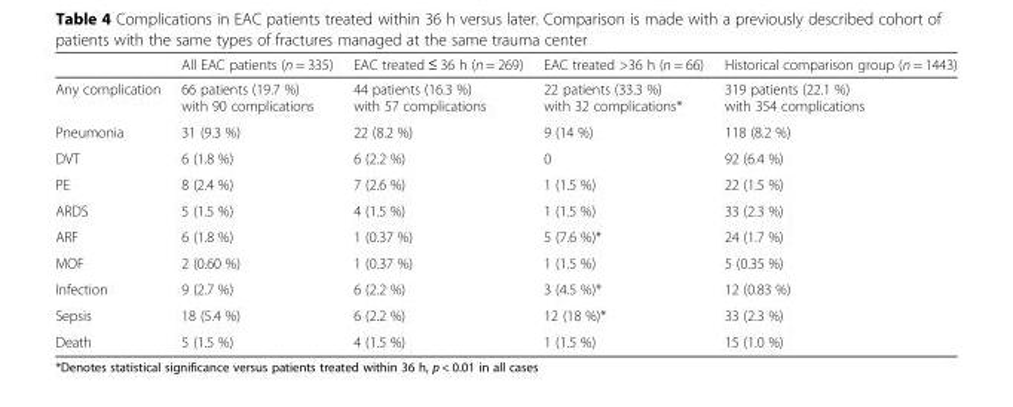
<table><thead><tr><td></td><td>All EAC patients (n = 335)</td><td>EAC treated ≤ 36 h (n = 269)</td><td>EAC treated &gt;36 h (n = 66)</td><td>Historical comparison group (n = 1443)</td></tr></thead><tbody><tr><td>Any complication</td><td>66 patients (19.7 %) with 90 complications</td><td>44 patients (16.3 %) with 57 complications</td><td>22 patients (33.3 %) with 32 complications*</td><td>319 patients (22.1 %) with 354 complications</td></tr><tr><td>Pneumonia</td><td>31 (9.3 %)</td><td>22 (8.2 %)</td><td>9 (14 %)</td><td>118 (8.2 %)</td></tr><tr><td>DVT</td><td>6 (1.8 %)</td><td>6 (2.2 %)</td><td>0</td><td>92 (6.4 %)</td></tr><tr><td>PE</td><td>8 (2.4 %)</td><td>7 (2.6 %)</td><td>1 (1.5 %)</td><td>22 (1.5 %)</td></tr><tr><td>ARDS</td><td>5 (1.5 %)</td><td>4 (1.5 %)</td><td>1 (1.5 %)</td><td>33 (2.3 %)</td></tr><tr><td>ARF</td><td>6 (1.8 %)</td><td>1 (0.37 %)</td><td>5 (7.6 %)*</td><td>24 (1.7 %)</td></tr><tr><td>MOF</td><td>2 (0.60 %)</td><td>1 (0.37 %)</td><td>1 (1.5 %)</td><td>5 (0.35 %)</td></tr><tr><td>Infection</td><td>9 (2.7 %)</td><td>6 (2.2 %)</td><td>3 (4.5 %)*</td><td>12 (0.83 %)</td></tr><tr><td>Sepsis</td><td>18 (5.4 %)</td><td>6 (2.2 %)</td><td>12 (18 %)*</td><td>33 (2.3 %)</td></tr><tr><td>Death</td><td>5 (1.5 %)</td><td>4 (1.5 %)</td><td>1 (1.5 %)</td><td>15 (1.0 %)</td></tr></tbody></table>